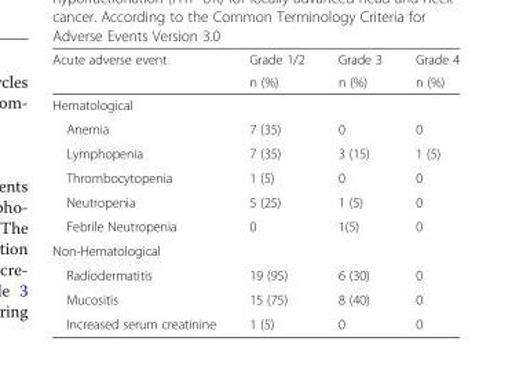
<table><thead><tr><td rowspan="2">Acute adverse event</td><td rowspan="2">Grade 1/2 n (%)</td><td rowspan="2">Grade 3 n (%)</td><td rowspan="2">Grade 4 n (%)</td></tr><tr></tr></thead><tbody><tr><td colspan="4">Hematological</td></tr><tr><td>Anemia</td><td>7 (35)</td><td>0</td><td>0</td></tr><tr><td>Lymphopenia</td><td>7 (35)</td><td>3 (15)</td><td>1 (5)</td></tr><tr><td>Thrombocytopenia</td><td>1 (5)</td><td>0</td><td>0</td></tr><tr><td>Neutropenia</td><td>5 (25)</td><td>1 (5)</td><td>0</td></tr><tr><td>Febrile Neutropenia</td><td>0</td><td>1(5)</td><td>0</td></tr><tr><td colspan="4">Non-Hematological</td></tr><tr><td>Radiodermatitis</td><td>19 (95)</td><td>6 (30)</td><td>0</td></tr><tr><td>Mucositis</td><td>15 (75)</td><td>8 (40)</td><td>0</td></tr><tr><td>Increased serum creatinine</td><td>1 (5)</td><td>0</td><td>0</td></tr></tbody></table>